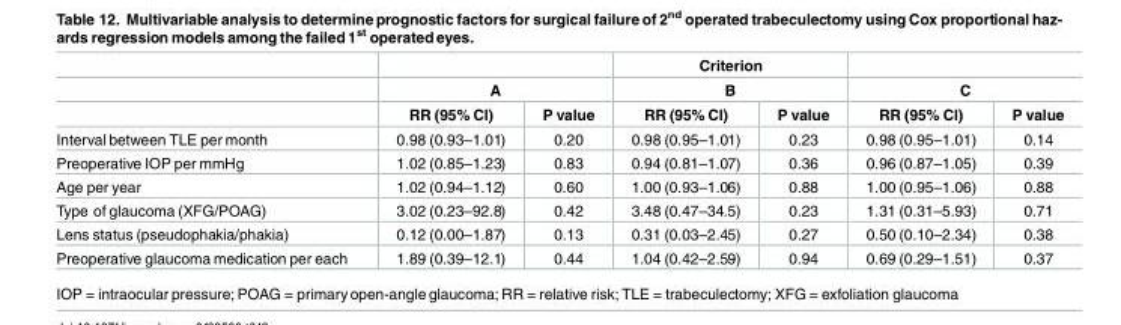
<table><thead><tr><td rowspan="3"></td><td></td><td></td><td rowspan="2" colspan="2">Criterion B</td><td></td><td></td></tr><tr><td colspan="2">A</td><td colspan="2">C</td></tr><tr><td>RR (95% Cl)</td><td>P value</td><td>RR (95% Cl)</td><td>P value</td><td>RR (95% Cl)</td><td>P value</td></tr></thead><tbody><tr><td>Interval between TLE per month</td><td>0.98 (0.93–1.01)</td><td>0.20</td><td>0.98 (0.95–1.01)</td><td>0.23</td><td>0.98 (0.95–1.01)</td><td>0.14</td></tr><tr><td>Preoperative IOP per mmHg</td><td>1.02 (0.85–1.23)</td><td>0.83</td><td>0.94 (0.81–1.07)</td><td>0.36</td><td>0.96 (0.87–1.05)</td><td>0.39</td></tr><tr><td>Age per year</td><td>1.02 (0.94–1.12)</td><td>0.60</td><td>1.00 (0.93–1.06)</td><td>0.88</td><td>1.00 (0.95–1.06)</td><td>0.88</td></tr><tr><td>Type of glaucoma (XFG/POAG)</td><td>3.02 (0.23–92.8)</td><td>0.42</td><td>3.48 (0.47–34.5)</td><td>0.23</td><td>1.31 (0.31–5.93)</td><td>0.71</td></tr><tr><td>Lens status (pseudophakia/phakia)</td><td>0.12 (0.00–1.87)</td><td>0.13</td><td>0.31 (0.03–2.45)</td><td>0.27</td><td>0.50 (0.10–2.34)</td><td>0.38</td></tr><tr><td>Preoperative glaucoma medication per each</td><td>1.89 (0.39–12.1)</td><td>0.44</td><td>1.04 (0.42–2.59)</td><td>0.94</td><td>0.69 (0.29–1.51)</td><td>0.37</td></tr></tbody></table>